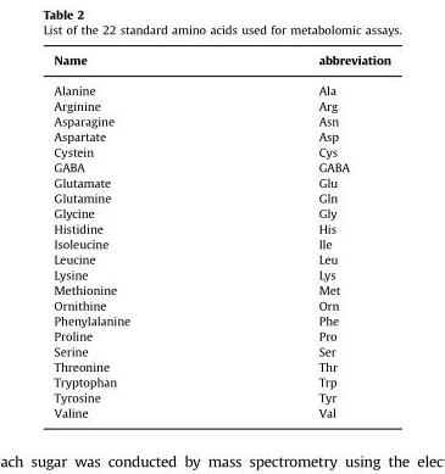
<table><thead><tr><td>Name</td><td>abbreviation</td></tr></thead><tbody><tr><td>Alanine</td><td>Ala</td></tr><tr><td>Arginine</td><td>Arg</td></tr><tr><td>Asparagine</td><td>Asn</td></tr><tr><td>Aspartate</td><td>Asp</td></tr><tr><td>Cystein</td><td>Cys</td></tr><tr><td>GABA</td><td>GABA</td></tr><tr><td>Glutamate</td><td>Glu</td></tr><tr><td>Glutamine</td><td>Gln</td></tr><tr><td>Glycine</td><td>Gly</td></tr><tr><td>Histidine</td><td>His</td></tr><tr><td>Isoleucine</td><td>Ile</td></tr><tr><td>Leucine</td><td>Leu</td></tr><tr><td>Lysine</td><td>Lys</td></tr><tr><td>Methionine</td><td>Met</td></tr><tr><td>Ornithine</td><td>Orn</td></tr><tr><td>Phenylalanine</td><td>Phe</td></tr><tr><td>Proline</td><td>Pro</td></tr><tr><td>Serine</td><td>Ser</td></tr><tr><td>Threonine</td><td>Thr</td></tr><tr><td>Tryptophan</td><td>Trp</td></tr><tr><td>Tyrosine</td><td>Tyr</td></tr><tr><td>Valine</td><td>Val</td></tr></tbody></table>